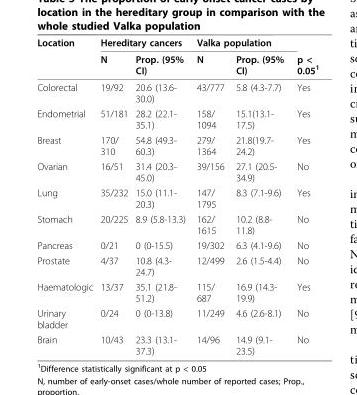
<table><thead><tr><td rowspan="2">Location</td><td colspan="2">Hereditary cancers</td><td colspan="2">Valka population</td><td rowspan="2">p &lt; 0.05<sup>1</sup></td></tr><tr><td>N</td><td>Prop. (95% CI)</td><td>N</td><td>Prop. (95% CI)</td></tr></thead><tbody><tr><td>Colorectal</td><td>19/92</td><td>20.6 (13.6- 30.0)</td><td>43/777</td><td>5.8 (4.3-7.7)</td><td>Yes</td></tr><tr><td>Endometrial</td><td>51/181</td><td>28.2 (22.1- 35.1)</td><td>158/ 1094</td><td>15.1(13.1- 17.5)</td><td>Yes</td></tr><tr><td>Breast</td><td>170/ 310</td><td>54.8 (49.3- 60.3)</td><td>279/ 1364</td><td>21.8(19.7- 24.2)</td><td>Yes</td></tr><tr><td>Ovarian</td><td>16/51</td><td>31.4 (20.3- 45.0)</td><td>39/156</td><td>27.1 (20.5- 34.9)</td><td>No</td></tr><tr><td>Lung</td><td>35/232</td><td>15.0 (11.1- 20.3)</td><td>147/ 1795</td><td>8.3 (7.1-9.6)</td><td>Yes</td></tr><tr><td>Stomach</td><td>20/225</td><td>8.9 (5.8-13.3)</td><td>162/ 1615</td><td>10.2 (8.8- 11.8)</td><td>No</td></tr><tr><td>Pancreas</td><td>0/21</td><td>0 (0-15.5)</td><td>19/302</td><td>6.3 (4.1-9.6)</td><td>No</td></tr><tr><td>Prostate</td><td>4/37</td><td>10.8 (4.3- 24.7)</td><td>12/499</td><td>2.6 (1.5-4.4)</td><td>No</td></tr><tr><td>Haematologic</td><td>13/37</td><td>35.1 (21.8- 51.2)</td><td>115/ 687</td><td>16.9 (14.3- 19.9)</td><td>Yes</td></tr><tr><td>Urinary bladder</td><td>0/24</td><td>0 (0-13.8)</td><td>11/249</td><td>4.6 (2.6-8.1)</td><td>No</td></tr><tr><td>Brain</td><td>10/43</td><td>23.3 (13.1- 37.3)</td><td>14/96</td><td>14.9 (9.1- 23.5)</td><td>No</td></tr></tbody></table>